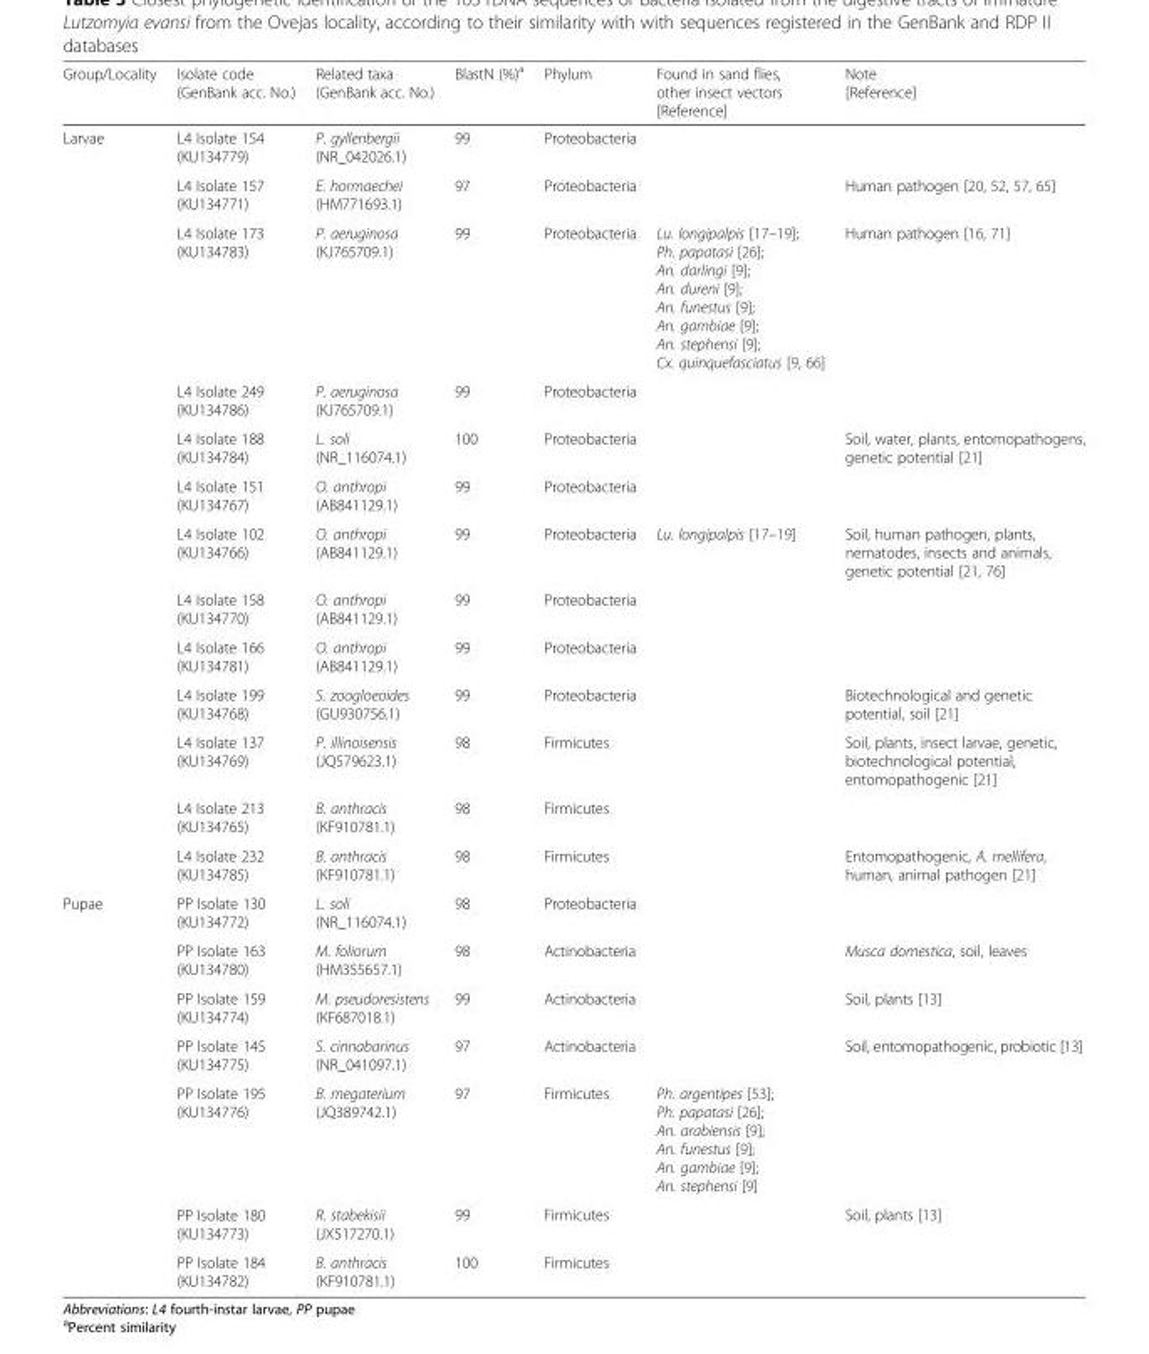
<table><thead><tr><td>Group/Locality</td><td>Isolate code (GenBank acc. No.)</td><td>Related taxa (GenBank acc. No.)</td><td>BlastN (%)<sup>a</sup></td><td>Phylum</td><td>Found in sand flies, other insect vectors [Reference]</td><td>Note [Reference]</td></tr></thead><tbody><tr><td rowspan="13">Larvae</td><td>L4 Isolate 154 (KU134779)</td><td>P. gyllenbergii (NR_042026.1)</td><td>99</td><td>Proteobacteria</td><td></td><td></td></tr><tr><td>L4 Isolate 157 (KU134771)</td><td>E. hormaechei (HM771693.1)</td><td>97</td><td>Proteobacteria</td><td></td><td>Human pathogen [20, 52, 57, 65]</td></tr><tr><td>L4 Isolate 173 (KU134783)</td><td>P. aeruginosa (KJ765709.1)</td><td>99</td><td>Proteobacteria</td><td>Lu. longipalpis [17–19]; Ph. papatasi [26]; An. darlingi [9]; An. dureni [9]; An. funestus [9]; An. gambiae [9]; An. stephensi [9]; Cx. quinquefasciatus [9, 66]</td><td>Human pathogen [16, 71]</td></tr><tr><td>L4 Isolate 249 (KU134786)</td><td>P. aeruginosa (KJ765709.1)</td><td>99</td><td>Proteobacteria</td><td></td><td></td></tr><tr><td>L4 Isolate 188 (KU134784)</td><td>L. soli (NR_116074.1)</td><td>100</td><td>Proteobacteria</td><td></td><td>Soil, water, plants, entomopathogens, genetic potential [21]</td></tr><tr><td>L4 Isolate 151 (KU134767)</td><td>O. anthropi (AB841129.1)</td><td>99</td><td>Proteobacteria</td><td></td><td></td></tr><tr><td>L4 Isolate 102 (KU134766)</td><td>O. anthropi (AB841129.1)</td><td>99</td><td>Proteobacteria</td><td>Lu. longipalpis [17–19]</td><td>Soil, human pathogen, plants, nematodes, insects and animals, genetic potential [21, 76]</td></tr><tr><td>L4 Isolate 158 (KU134770)</td><td>O. anthropi (AB841129.1)</td><td>99</td><td>Proteobacteria</td><td></td><td></td></tr><tr><td>L4 Isolate 166 (KU134781)</td><td>O. anthropi (AB841129.1)</td><td>99</td><td>Proteobacteria</td><td></td><td></td></tr><tr><td>L4 Isolate 199 (KU134768)</td><td>S. zoogloeoides (GU930756.1)</td><td>99</td><td>Proteobacteria</td><td></td><td>Biotechnological and genetic potential, soil [21]</td></tr><tr><td>L4 Isolate 137 (KU134769)</td><td>P. illinoisensis (JQ579623.1)</td><td>98</td><td>Firmicutes</td><td></td><td>Soil, plants, insect larvae, genetic, biotechnological potential, entomopathogenic [21]</td></tr><tr><td>L4 Isolate 213 (KU134765)</td><td>B. anthracis (KF910781.1)</td><td>98</td><td>Firmicutes</td><td></td><td></td></tr><tr><td>L4 Isolate 232 (KU134785)</td><td>B. anthracis (KF910781.1)</td><td>98</td><td>Firmicutes</td><td></td><td>Entomopathogenic, A. mellifera, human, animal pathogen [21]</td></tr><tr><td rowspan="7">Pupae</td><td>PP Isolate 130 (KU134772)</td><td>L. soli (NR_116074.1)</td><td>98</td><td>Proteobacteria</td><td></td><td></td></tr><tr><td>PP Isolate 163 (KU134780)</td><td>M. foliorum (HM355657.1)</td><td>98</td><td>Actinobacteria</td><td></td><td>Musca domestica, soil, leaves</td></tr><tr><td>PP Isolate 159 (KU134774)</td><td>M. pseudoresistens (KF687018.1)</td><td>99</td><td>Actinobacteria</td><td></td><td>Soil, plants [13]</td></tr><tr><td>PP Isolate 145 (KU134775)</td><td>S. cinnabarinus (NR_041097.1)</td><td>97</td><td>Actinobacteria</td><td></td><td>Soil, entomopathogenic, probiotic [13]</td></tr><tr><td>PP Isolate 195 (KU134776)</td><td>B. megaterium (JQ389742.1)</td><td>97</td><td>Firmicutes</td><td>Ph. argentipes [53]; Ph. papatasi [26]; An. arabiensis [9]; An. funestus [9]; An. gambiae [9]; An. stephensi [9]</td><td></td></tr><tr><td>PP Isolate 180 (KU134773)</td><td>R. stabekisii (JX517270.1)</td><td>99</td><td>Firmicutes</td><td></td><td>Soil, plants [13]</td></tr><tr><td>PP Isolate 184 (KU134782)</td><td>B. anthracis (KF910781.1)</td><td>100</td><td>Firmicutes</td><td></td><td></td></tr></tbody></table>